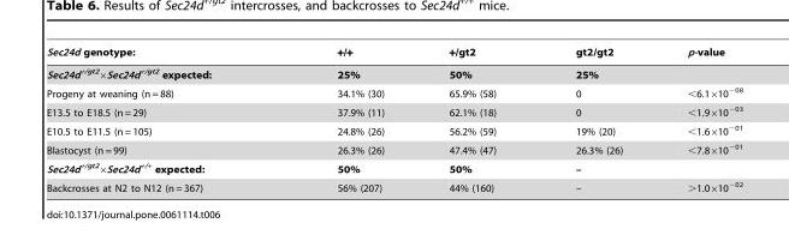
<table><thead><tr><td>Sec24d genotype:</td><td>+/+</td><td>+/gt2</td><td>gt2/gt2</td><td>p-value</td></tr></thead><tbody><tr><td>Sec24d<sup>+/gt2</sup>×Sec24d<sup>+/gt2</sup> expected:</td><td>25%</td><td>50%</td><td>25%</td><td></td></tr><tr><td>Progeny at weaning (n = 88)</td><td>34.1% (30)</td><td>65.9% (58)</td><td>0</td><td>&lt;6.1×10<sup>−08</sup></td></tr><tr><td>E13.5 to E18.5 (n = 29)</td><td>37.9% (11)</td><td>62.1% (18)</td><td>0</td><td>&lt;1.9×10<sup>−03</sup></td></tr><tr><td>E10.5 to E11.5 (n = 105)</td><td>24.8% (26)</td><td>56.2% (59)</td><td>19% (20)</td><td>&lt;1.6×10<sup>−01</sup></td></tr><tr><td>Blastocyst (n = 99)</td><td>26.3% (26)</td><td>47.4% (47)</td><td>26.3% (26)</td><td>&lt;7.8×10<sup>−01</sup></td></tr><tr><td>Sec24d<sup>+/gt2</sup>×Sec24d<sup>+/+</sup> expected:</td><td>50%</td><td>50%</td><td>–</td><td></td></tr><tr><td>Backcrosses at N2 to N12 (n = 367)</td><td>56% (207)</td><td>44% (160)</td><td>–</td><td>&gt;1.0×10<sup>−02</sup></td></tr></tbody></table>